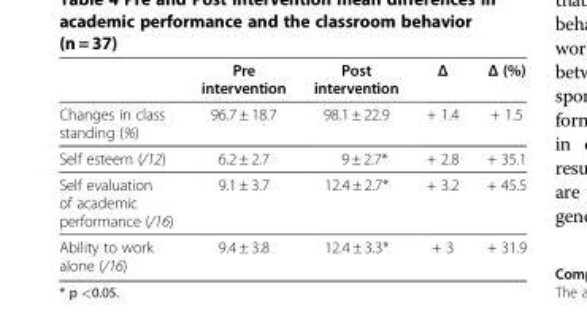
<table><thead><tr><td></td><td>Pre intervention</td><td>Post intervention</td><td>Δ</td><td>Δ (%)</td></tr></thead><tbody><tr><td>Changes in class standing (%)</td><td>96.7 ± 18.7</td><td>98.1 ± 22.9</td><td>+ 1.4</td><td>+ 1.5</td></tr><tr><td>Self esteem (/12)</td><td>6.2 ± 2.7</td><td>9 ± 2.7*</td><td>+ 2.8</td><td>+ 35.1</td></tr><tr><td>Self evaluation of academic performance (/16)</td><td>9.1 ± 3.7</td><td>12.4 ± 2.7*</td><td>+ 3.2</td><td>+ 45.5</td></tr><tr><td>Ability to work alone (/16)</td><td>9.4 ± 3.8</td><td>12.4 ± 3.3*</td><td>+ 3</td><td>+ 31.9</td></tr></tbody></table>